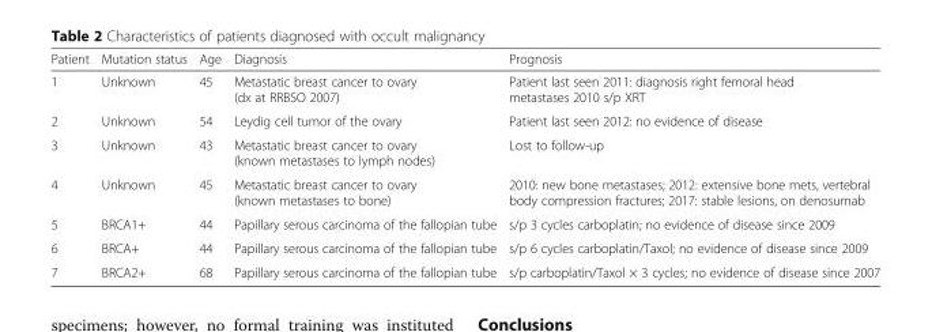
<table><thead><tr><td>Patient</td><td>Mutation status</td><td>Age</td><td>Diagnosis</td><td>Prognosis</td></tr></thead><tbody><tr><td>1</td><td>Unknown</td><td>45</td><td>Metastatic breast cancer to ovary (dx at RRBSO 2007)</td><td>Patient last seen 2011: diagnosis right femoral head metastases 2010 s/p XRT</td></tr><tr><td>2</td><td>Unknown</td><td>54</td><td>Leydig cell tumor of the ovary</td><td>Patient last seen 2012: no evidence of disease</td></tr><tr><td>3</td><td>Unknown</td><td>43</td><td>Metastatic breast cancer to ovary (known metastases to lymph nodes)</td><td>Lost to follow-up</td></tr><tr><td>4</td><td>Unknown</td><td>45</td><td>Metastatic breast cancer to ovary (known metastases to bone)</td><td>2010: new bone metastases; 2012: extensive bone mets, vertebral body compression fractures; 2017: stable lesions, on denosumab</td></tr><tr><td>5</td><td>BRCA1+</td><td>44</td><td>Papillary serous carcinoma of the fallopian tube</td><td>s/p 3 cycles carboplatin; no evidence of disease since 2009</td></tr><tr><td>6</td><td>BRCA+</td><td>44</td><td>Papillary serous carcinoma of the fallopian tube</td><td>s/p 6 cycles carboplatin/Taxol; no evidence of disease since 2009</td></tr><tr><td>7</td><td>BRCA2+</td><td>68</td><td>Papillary serous carcinoma of the fallopian tube</td><td>s/p carboplatin/Taxol × 3 cycles; no evidence of disease since 2007</td></tr></tbody></table>